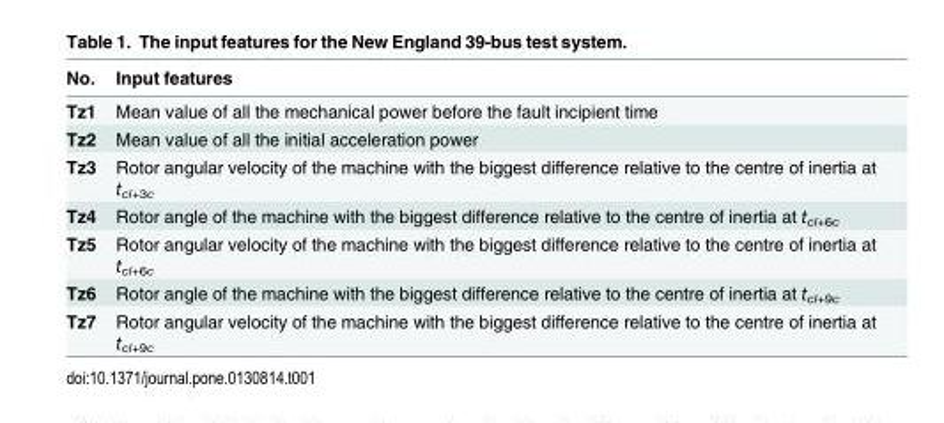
<table><thead><tr><td>No.</td><td>Input features</td></tr></thead><tbody><tr><td>Tz1</td><td>Mean value of all the mechanical power before the fault incipient time</td></tr><tr><td>Tz2</td><td>Mean value of all the initial acceleration power</td></tr><tr><td>Tz3</td><td>Rotor angular velocity of the machine with the biggest difference relative to the centre of inertia at t<sub>cl+3c</sub></td></tr><tr><td>Tz4</td><td>Rotor angle of the machine with the biggest difference relative to the centre of inertia at t<sub>cl+6c</sub></td></tr><tr><td>Tz5</td><td>Rotor angular velocity of the machine with the biggest difference relative to the centre of inertia at t<sub>cl+6c</sub></td></tr><tr><td>Tz6</td><td>Rotor angle of the machine with the biggest difference relative to the centre of inertia at t<sub>cl+9c</sub></td></tr><tr><td>Tz7</td><td>Rotor angular velocity of the machine with the biggest difference relative to the centre of inertia at t<sub>cl+9c</sub></td></tr></tbody></table>